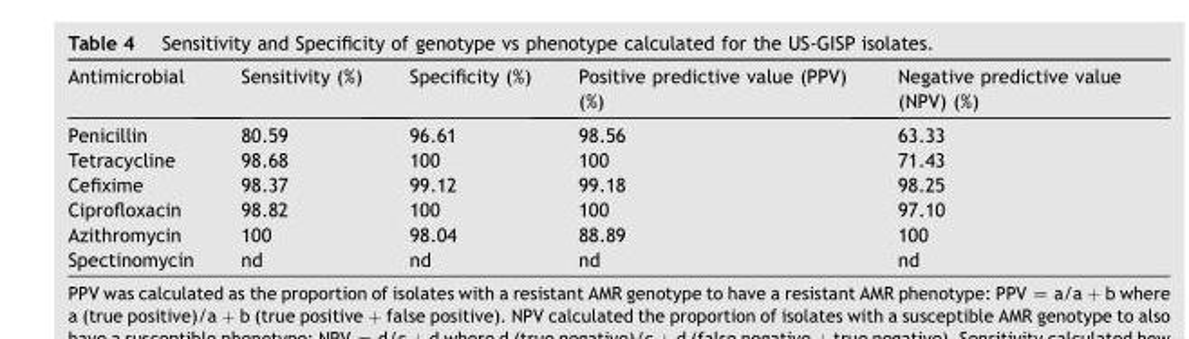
<table><thead><tr><td>Antimicrobial</td><td>Sensitivity (%)</td><td>Specificity (%)</td><td>Positive predictive value (PPV) (%)</td><td>Negative predictive value (NPV) (%)</td></tr></thead><tbody><tr><td>Penicillin</td><td>80.59</td><td>96.61</td><td>98.56</td><td>63.33</td></tr><tr><td>Tetracycline</td><td>98.68</td><td>100</td><td>100</td><td>71.43</td></tr><tr><td>Cefixime</td><td>98.37</td><td>99.12</td><td>99.18</td><td>98.25</td></tr><tr><td>Ciprofloxacin</td><td>98.82</td><td>100</td><td>100</td><td>97.10</td></tr><tr><td>Azithromycin</td><td>100</td><td>98.04</td><td>88.89</td><td>100</td></tr><tr><td>Spectinomycin</td><td>nd</td><td>nd</td><td>nd</td><td>nd</td></tr></tbody></table>